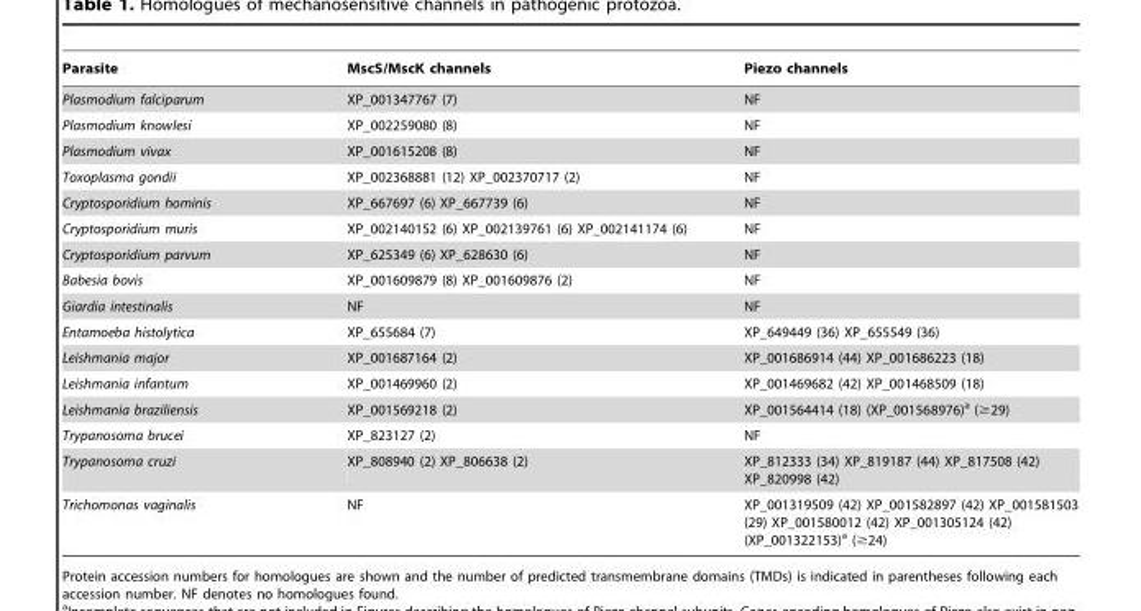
<table><thead><tr><td>Parasite</td><td>MscS/MscK channels</td><td>Piezo channels</td></tr></thead><tbody><tr><td>Plasmodium falciparum</td><td>XP_001347767 (7)</td><td>NF</td></tr><tr><td>Plasmodium knowlesi</td><td>XP_002259080 (8)</td><td>NF</td></tr><tr><td>Plasmodium vivax</td><td>XP_001615208 (8)</td><td>NF</td></tr><tr><td>Toxoplasma gondii</td><td>XP_002368881 (12) XP_002370717 (2)</td><td>NF</td></tr><tr><td>Cryptosporidium hominis</td><td>XP_667697 (6) XP_667739 (6)</td><td>NF</td></tr><tr><td>Cryptosporidium muris</td><td>XP_002140152 (6) XP_002139761 (6) XP_002141174 (6)</td><td>NF</td></tr><tr><td>Cryptosporidium parvum</td><td>XP_625349 (6) XP_628630 (6)</td><td>NF</td></tr><tr><td>Babesia bovis</td><td>XP_001609879 (8) XP_001609876 (2)</td><td>NF</td></tr><tr><td>Giardia intestinalis</td><td>NF</td><td>NF</td></tr><tr><td>Entamoeba histolytica</td><td>XP_655684 (7)</td><td>XP_649449 (36) XP_655549 (36)</td></tr><tr><td>Leishmania major</td><td>XP_001687164 (2)</td><td>XP_001686914 (44) XP_001686223 (18)</td></tr><tr><td>Leishmania infantum</td><td>XP_001469960 (2)</td><td>XP_001469682 (42) XP_001468509 (18)</td></tr><tr><td>Leishmania braziliensis</td><td>XP_001569218 (2)</td><td>XP_001564414 (18) (XP_001568976)<sup>a</sup> (≥29)</td></tr><tr><td>Trypanosoma brucei</td><td>XP_823127 (2)</td><td>NF</td></tr><tr><td>Trypanosoma cruzi</td><td>XP_808940 (2) XP_806638 (2)</td><td>XP_812333 (34) XP_819187 (44) XP_817508 (42) XP_820998 (42)</td></tr><tr><td>Trichomonas vaginalis</td><td>NF</td><td>XP_001319509 (42) XP_001582897 (42) XP_001581503 (29) XP_001580012 (42) XP_001305124 (42) (XP_001322153)<sup>a</sup> (≥24)</td></tr></tbody></table>